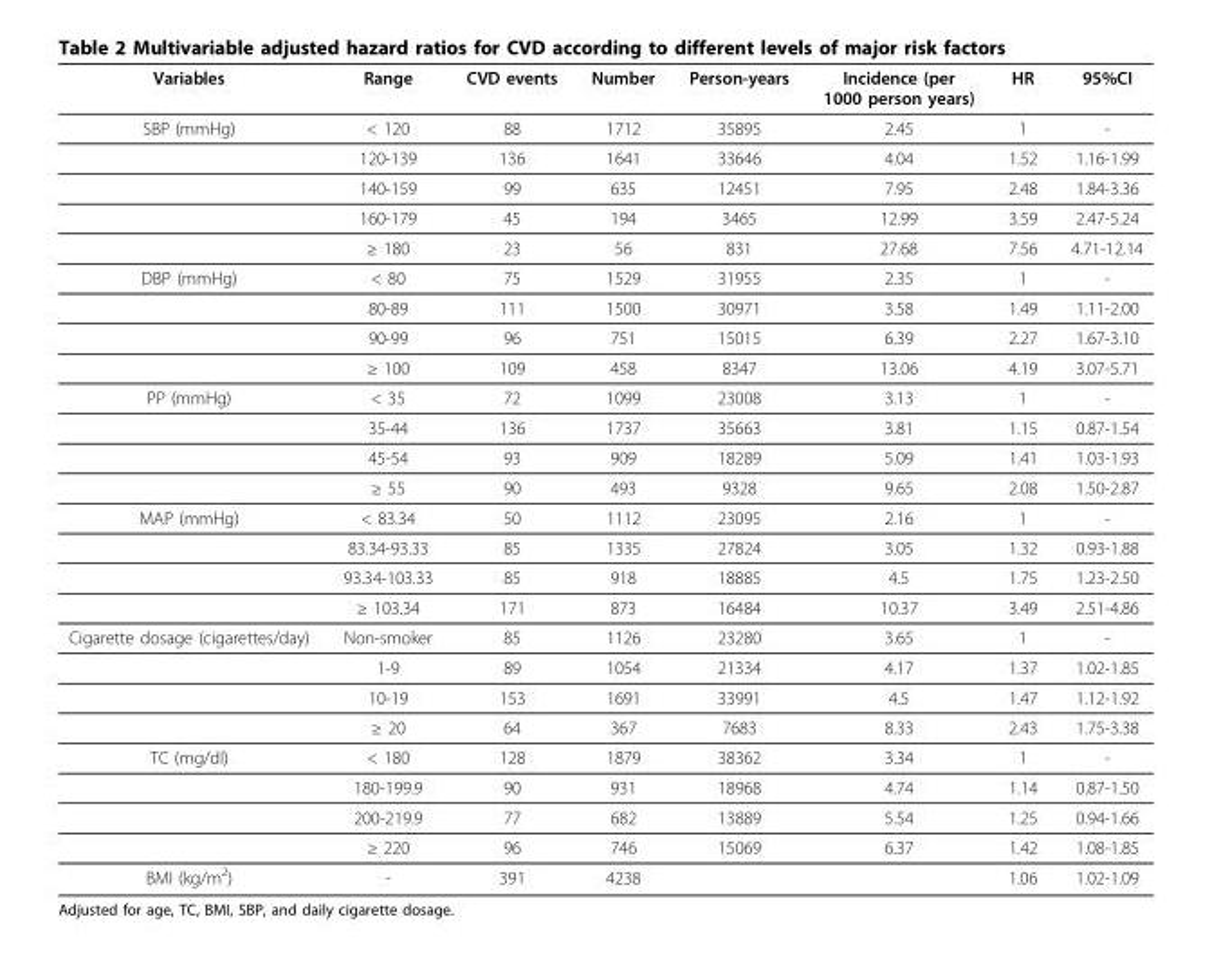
<table><thead><tr><td>Variables</td><td>Range</td><td>CVD events</td><td>Number</td><td>Person-years</td><td>Incidence (per 1000 person years)</td><td>HR</td><td>95%CI</td></tr></thead><tbody><tr><td rowspan="5">SBP (mmHg)</td><td>&lt; 120</td><td>88</td><td>1712</td><td>35895</td><td>2.45</td><td>1</td><td>-</td></tr><tr><td>120-139</td><td>136</td><td>1641</td><td>33646</td><td>4.04</td><td>1.52</td><td>1.16-1.99</td></tr><tr><td>140-159</td><td>99</td><td>635</td><td>12451</td><td>7.95</td><td>2.48</td><td>1.84-3.36</td></tr><tr><td>160-179</td><td>45</td><td>194</td><td>3465</td><td>12.99</td><td>3.59</td><td>2.47-5.24</td></tr><tr><td>≥ 180</td><td>23</td><td>56</td><td>831</td><td>27.68</td><td>7.56</td><td>4.71-12.14</td></tr><tr><td rowspan="4">DBP (mmHg)</td><td>&lt; 80</td><td>75</td><td>1529</td><td>31955</td><td>2.35</td><td>1</td><td>-</td></tr><tr><td>80-89</td><td>111</td><td>1500</td><td>30971</td><td>3.58</td><td>1.49</td><td>1.11-2.00</td></tr><tr><td>90-99</td><td>96</td><td>751</td><td>15015</td><td>6.39</td><td>2.27</td><td>1.67-3.10</td></tr><tr><td>≥ 100</td><td>109</td><td>458</td><td>8347</td><td>13.06</td><td>4.19</td><td>3.07-5.71</td></tr><tr><td rowspan="4">PP (mmHg)</td><td>&lt; 35</td><td>72</td><td>1099</td><td>23008</td><td>3.13</td><td>1</td><td>-</td></tr><tr><td>35-44</td><td>136</td><td>1737</td><td>35663</td><td>3.81</td><td>1.15</td><td>0.87-1.54</td></tr><tr><td>45-54</td><td>93</td><td>909</td><td>18289</td><td>5.09</td><td>1.41</td><td>1.03-1.93</td></tr><tr><td>≥ 55</td><td>90</td><td>493</td><td>9328</td><td>9.65</td><td>2.08</td><td>1.50-2.87</td></tr><tr><td rowspan="4">MAP (mmHg)</td><td>&lt; 83.34</td><td>50</td><td>1112</td><td>23095</td><td>2.16</td><td>1</td><td>-</td></tr><tr><td>83.34-93.33</td><td>85</td><td>1335</td><td>27824</td><td>3.05</td><td>1.32</td><td>0.93-1.88</td></tr><tr><td>93.34-103.33</td><td>85</td><td>918</td><td>18885</td><td>4.5</td><td>1.75</td><td>1.23-2.50</td></tr><tr><td>≥ 103.34</td><td>171</td><td>873</td><td>16484</td><td>10.37</td><td>3.49</td><td>2.51-4.86</td></tr><tr><td rowspan="4">Cigarette dosage (cigarettes/day)</td><td>Non-smoker</td><td>85</td><td>1126</td><td>23280</td><td>3.65</td><td>1</td><td>-</td></tr><tr><td>1-9</td><td>89</td><td>1054</td><td>21334</td><td>4.17</td><td>1.37</td><td>1.02-1.85</td></tr><tr><td>10-19</td><td>153</td><td>1691</td><td>33991</td><td>4.5</td><td>1.47</td><td>1.12-1.92</td></tr><tr><td>≥ 20</td><td>64</td><td>367</td><td>7683</td><td>8.33</td><td>2.43</td><td>1.75-3.38</td></tr><tr><td rowspan="4">TC (mg/dl)</td><td>&lt; 180</td><td>128</td><td>1879</td><td>38362</td><td>3.34</td><td>1</td><td>-</td></tr><tr><td>180-199.9</td><td>90</td><td>931</td><td>18968</td><td>4.74</td><td>1.14</td><td>0.87-1.50</td></tr><tr><td>200-219.9</td><td>77</td><td>682</td><td>13889</td><td>5.54</td><td>1.25</td><td>0.94-1.66</td></tr><tr><td>≥ 220</td><td>96</td><td>746</td><td>15069</td><td>6.37</td><td>1.42</td><td>1.08-1.85</td></tr><tr><td>BMI (kg/m<sup>2</sup>)</td><td>-</td><td>391</td><td>4238</td><td></td><td></td><td>1.06</td><td>1.02-1.09</td></tr></tbody></table>